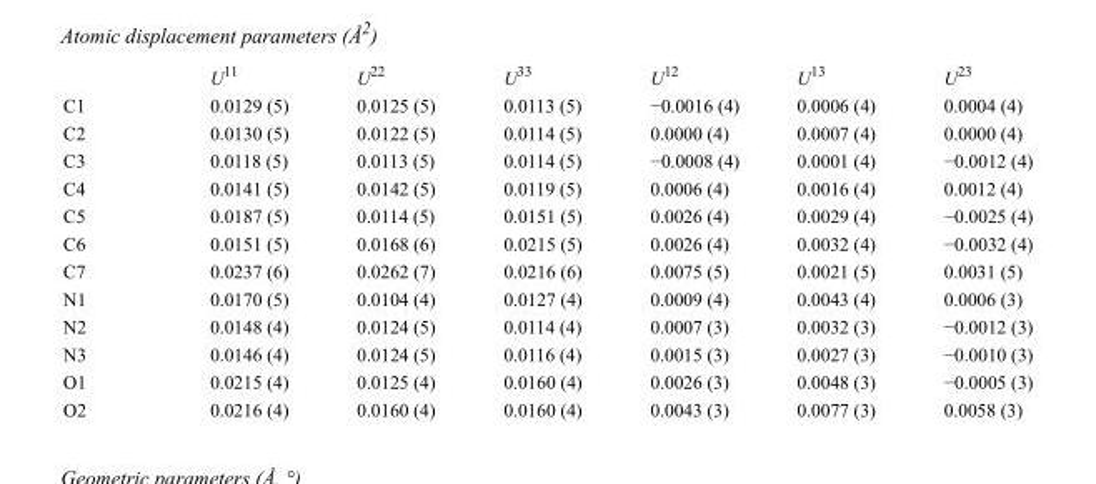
<table><thead><tr><td></td><td>U<sup>11</sup></td><td>U<sup>22</sup></td><td>U<sup>33</sup></td><td>U<sup>12</sup></td><td>U<sup>13</sup></td><td>U<sup>23</sup></td></tr></thead><tbody><tr><td>C1</td><td>0.0129 (5)</td><td>0.0125 (5)</td><td>0.0113 (5)</td><td>−0.0016 (4)</td><td>0.0006 (4)</td><td>0.0004 (4)</td></tr><tr><td>C2</td><td>0.0130 (5)</td><td>0.0122 (5)</td><td>0.0114 (5)</td><td>0.0000 (4)</td><td>0.0007 (4)</td><td>0.0000 (4)</td></tr><tr><td>C3</td><td>0.0118 (5)</td><td>0.0113 (5)</td><td>0.0114 (5)</td><td>−0.0008 (4)</td><td>0.0001 (4)</td><td>−0.0012 (4)</td></tr><tr><td>C4</td><td>0.0141 (5)</td><td>0.0142 (5)</td><td>0.0119 (5)</td><td>0.0006 (4)</td><td>0.0016 (4)</td><td>0.0012 (4)</td></tr><tr><td>C5</td><td>0.0187 (5)</td><td>0.0114 (5)</td><td>0.0151 (5)</td><td>0.0026 (4)</td><td>0.0029 (4)</td><td>−0.0025 (4)</td></tr><tr><td>C6</td><td>0.0151 (5)</td><td>0.0168 (6)</td><td>0.0215 (5)</td><td>0.0026 (4)</td><td>0.0032 (4)</td><td>−0.0032 (4)</td></tr><tr><td>C7</td><td>0.0237 (6)</td><td>0.0262 (7)</td><td>0.0216 (6)</td><td>0.0075 (5)</td><td>0.0021 (5)</td><td>0.0031 (5)</td></tr><tr><td>N1</td><td>0.0170 (5)</td><td>0.0104 (4)</td><td>0.0127 (4)</td><td>0.0009 (4)</td><td>0.0043 (4)</td><td>0.0006 (3)</td></tr><tr><td>N2</td><td>0.0148 (4)</td><td>0.0124 (5)</td><td>0.0114 (4)</td><td>0.0007 (3)</td><td>0.0032 (3)</td><td>−0.0012 (3)</td></tr><tr><td>N3</td><td>0.0146 (4)</td><td>0.0124 (5)</td><td>0.0116 (4)</td><td>0.0015 (3)</td><td>0.0027 (3)</td><td>−0.0010 (3)</td></tr><tr><td>O1</td><td>0.0215 (4)</td><td>0.0125 (4)</td><td>0.0160 (4)</td><td>0.0026 (3)</td><td>0.0048 (3)</td><td>−0.0005 (3)</td></tr><tr><td>O2</td><td>0.0216 (4)</td><td>0.0160 (4)</td><td>0.0160 (4)</td><td>0.0043 (3)</td><td>0.0077 (3)</td><td>0.0058 (3)</td></tr></tbody></table>